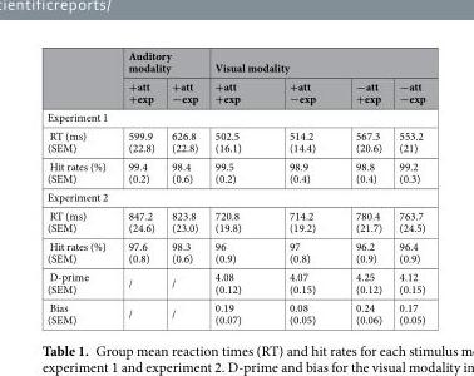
<table><thead><tr><td rowspan="2"></td><td colspan="2">Auditory modality</td><td colspan="4">Visual modality</td></tr><tr><td>+att +exp</td><td>+att −exp</td><td>+att +exp</td><td>+att −exp</td><td>−att +exp</td><td>−att −exp</td></tr></thead><tbody><tr><td colspan="7">Experiment 1</td></tr><tr><td>RT (ms) (SEM)</td><td>599.9 (22.8)</td><td>626.8 (22.8)</td><td>502.5 (16.1)</td><td>514.2 (14.4)</td><td>567.3 (20.6)</td><td>553.2 (21)</td></tr><tr><td>Hit rates (%) (SEM)</td><td>99.4 (0.2)</td><td>98.4 (0.6)</td><td>99.5 (0.2)</td><td>98.9 (0.4)</td><td>98.8 (0.4)</td><td>99.2 (0.3)</td></tr><tr><td colspan="7">Experiment 2</td></tr><tr><td>RT (ms) (SEM)</td><td>847.2 (24.6)</td><td>823.8 (23.0)</td><td>720.8 (19.8)</td><td>714.2 (19.2)</td><td>780.4 (21.7)</td><td>763.7 (24.5)</td></tr><tr><td>Hit rates (%) (SEM)</td><td>97.6 (0.8)</td><td>98.3 (0.6)</td><td>96 (0.9)</td><td>97 (0.8)</td><td>96.2 (0.9)</td><td>96.4 (0.9)</td></tr><tr><td>D-prime (SEM)</td><td>/</td><td>/</td><td>4.08 (0.12)</td><td>4.07 (0.15)</td><td>4.25 (0.12)</td><td>4.12 (0.15)</td></tr><tr><td>Bias (SEM)</td><td>/</td><td>/</td><td>0.19 (0.07)</td><td>0.08 (0.05)</td><td>0.24 (0.06)</td><td>0.17 (0.05)</td></tr></tbody></table>